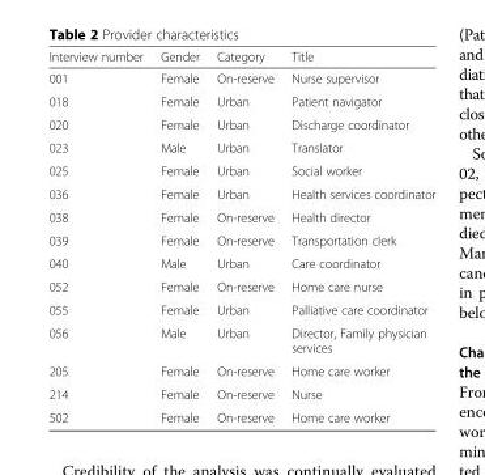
<table><thead><tr><td>Interview number</td><td>Gender</td><td>Category</td><td>Title</td></tr></thead><tbody><tr><td>001</td><td>Female</td><td>On-reserve</td><td>Nurse supervisor</td></tr><tr><td>018</td><td>Female</td><td>Urban</td><td>Patient navigator</td></tr><tr><td>020</td><td>Female</td><td>Urban</td><td>Discharge coordinator</td></tr><tr><td>023</td><td>Male</td><td>Urban</td><td>Translator</td></tr><tr><td>025</td><td>Female</td><td>Urban</td><td>Social worker</td></tr><tr><td>036</td><td>Female</td><td>Urban</td><td>Health services coordinator</td></tr><tr><td>038</td><td>Female</td><td>On-reserve</td><td>Health director</td></tr><tr><td>039</td><td>Female</td><td>On-reserve</td><td>Transportation clerk</td></tr><tr><td>040</td><td>Male</td><td>Urban</td><td>Care coordinator</td></tr><tr><td>052</td><td>Female</td><td>On-reserve</td><td>Home care nurse</td></tr><tr><td>055</td><td>Female</td><td>Urban</td><td>Palliative care coordinator</td></tr><tr><td>056</td><td>Male</td><td>Urban</td><td>Director, Family physician services</td></tr><tr><td>205</td><td>Female</td><td>On-reserve</td><td>Home care worker</td></tr><tr><td>214</td><td>Female</td><td>On-reserve</td><td>Nurse</td></tr><tr><td>502</td><td>Female</td><td>On-reserve</td><td>Home care worker</td></tr></tbody></table>